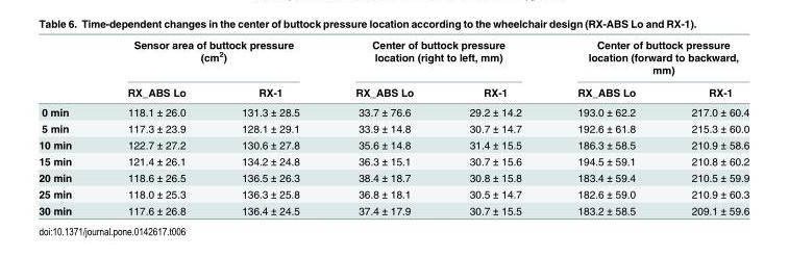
<table><thead><tr><td rowspan="2"></td><td colspan="2">Sensor area of buttock pressure (cm<sup>2</sup>)</td><td colspan="2">Center of buttock pressure location (right to left, mm)</td><td colspan="2">Center of buttock pressure location (forward to backward, mm)</td></tr><tr><td>RX_ABS Lo</td><td>RX-1</td><td>RX_ABS Lo</td><td>RX-1</td><td>RX_ABS Lo</td><td>RX-1</td></tr></thead><tbody><tr><td>0 min</td><td>118.1 ± 26.0</td><td>131.3 ± 28.5</td><td>33.7 ± 76.6</td><td>29.2 ± 14.2</td><td>193.0 ± 62.2</td><td>217.0 ± 60.4</td></tr><tr><td>5 min</td><td>117.3 ± 23.9</td><td>128.1 ± 29.1</td><td>33.9 ± 14.8</td><td>30.7 ± 14.7</td><td>192.6 ± 61.8</td><td>215.3 ± 60.0</td></tr><tr><td>10 min</td><td>122.7 ± 27.2</td><td>130.6 ± 27.8</td><td>35.6 ± 14.8</td><td>31.4 ± 15.5</td><td>186.3 ± 58.5</td><td>210.9 ± 58.6</td></tr><tr><td>15 min</td><td>121.4 ± 26.1</td><td>134.2 ± 24.8</td><td>36.3 ± 15.1</td><td>30.7 ± 15.6</td><td>194.5 ± 59.1</td><td>210.8 ± 60.2</td></tr><tr><td>20 min</td><td>118.6 ± 26.5</td><td>136.5 ± 26.3</td><td>38.4 ± 18.7</td><td>30.8 ± 15.8</td><td>183.4 ± 59.4</td><td>210.5 ± 59.9</td></tr><tr><td>25 min</td><td>118.0 ± 25.3</td><td>136.3 ± 25.8</td><td>36.8 ± 18.1</td><td>30.5 ± 14.7</td><td>182.6 ± 59.0</td><td>210.9 ± 60.3</td></tr><tr><td>30 min</td><td>117.6 ± 26.8</td><td>136.4 ± 24.5</td><td>37.4 ± 17.9</td><td>30.7 ± 15.5</td><td>183.2 ± 58.5</td><td>209.1 ± 59.6</td></tr></tbody></table>